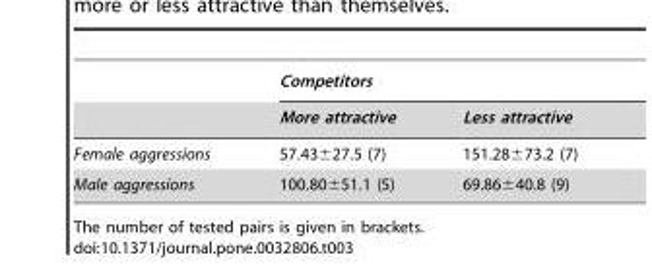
<table><thead><tr><td rowspan="2"></td><td colspan="2">Competitors</td></tr><tr><td>More attractive</td><td>Less attractive</td></tr></thead><tbody><tr><td>Female aggressions</td><td>57.43±27.5 (7)</td><td>151.28±73.2 (7)</td></tr><tr><td>Male aggressions</td><td>100.80±51.1 (5)</td><td>69.86±40.8 (9)</td></tr></tbody></table>